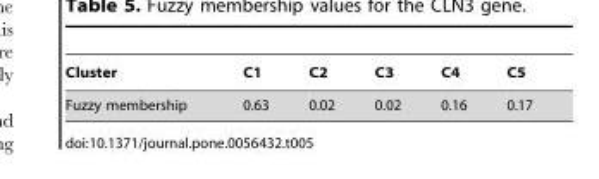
<table><thead><tr><td>Cluster</td><td>C1</td><td>C2</td><td>C3</td><td>C4</td><td>C5</td></tr></thead><tbody><tr><td>Fuzzy membership</td><td>0.63</td><td>0.02</td><td>0.02</td><td>0.16</td><td>0.17</td></tr></tbody></table>